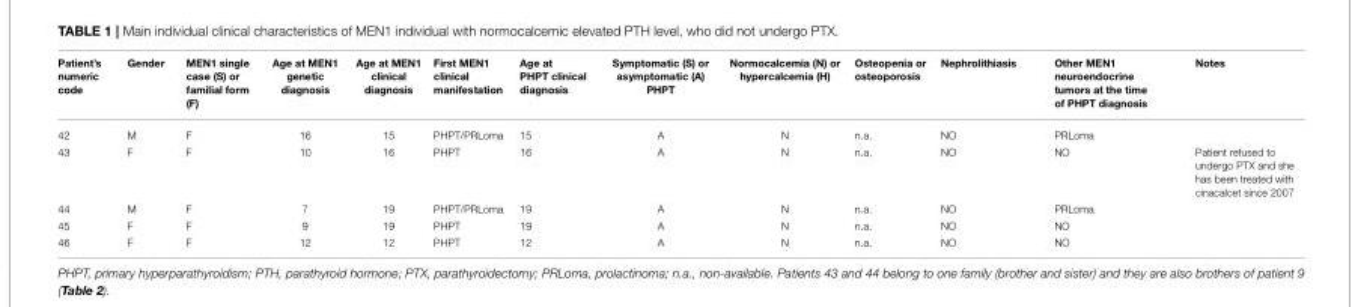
<table><thead><tr><td>Patient’s numeric code</td><td>Gender</td><td>MEN1 single case (S) or familial form (F)</td><td>Age at MEN1 genetic diagnosis</td><td>Age at MEN1 clinical diagnosis</td><td>First MEN1 clinical manifestation</td><td>Age at PHPT clinical diagnosis</td><td>Symptomatic (S) or asymptomatic (A) PHPT</td><td>Normocalcemia (N) or hypercalcemia (H)</td><td>Osteopenia or osteoporosis</td><td>Nephrolithiasis</td><td>Other MEN1 neuroendocrine tumors at the time of PHPT diagnosis</td><td>Notes</td></tr></thead><tbody><tr><td>42</td><td>M</td><td>F</td><td>16</td><td>15</td><td>PHPT/PRLoma</td><td>15</td><td>A</td><td>N</td><td>n.a.</td><td>NO</td><td>PRLoma</td><td></td></tr><tr><td>43</td><td>F</td><td>F</td><td>10</td><td>16</td><td>PHPT</td><td>16</td><td>A</td><td>N</td><td>n.a.</td><td>NO</td><td>NO</td><td>Patient refused to undergo PTX and she has been treated with cinacalcet since 2007</td></tr><tr><td>44</td><td>M</td><td>F</td><td>7</td><td>19</td><td>PHPT/PRLoma</td><td>19</td><td>A</td><td>N</td><td>n.a.</td><td>NO</td><td>PRLoma</td><td></td></tr><tr><td>45</td><td>F</td><td>F</td><td>9</td><td>19</td><td>PHPT</td><td>19</td><td>A</td><td>N</td><td>n.a.</td><td>NO</td><td>NO</td><td></td></tr><tr><td>46</td><td>F</td><td>F</td><td>12</td><td>12</td><td>PHPT</td><td>12</td><td>A</td><td>N</td><td>n.a.</td><td>NO</td><td>NO</td><td></td></tr></tbody></table>